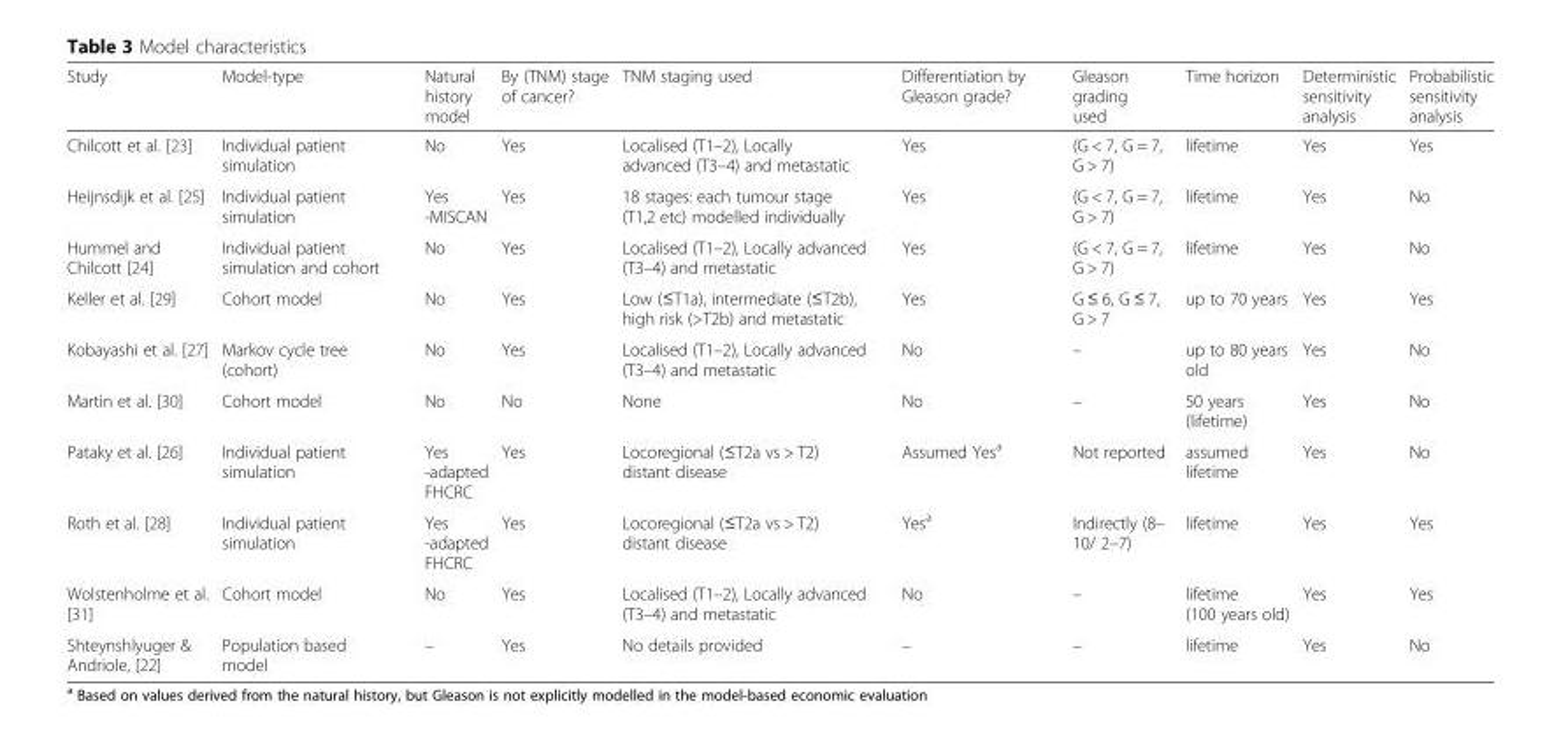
<table><thead><tr><td>Study</td><td>Model-type</td><td>Natural history model</td><td>By (TNM) stage of cancer?</td><td>TNM staging used</td><td>Differentiation by Gleason grade?</td><td>Gleason grading used</td><td>Time horizon</td><td>Deterministic sensitivity analysis</td><td>Probabilistic sensitivity analysis</td></tr></thead><tbody><tr><td>Chilcott et al. [23]</td><td>Individual patient simulation</td><td>No</td><td>Yes</td><td>Localised (T1–2), Locally advanced (T3–4) and metastatic</td><td>Yes</td><td>(G &lt; 7, G = 7, G &gt; 7)</td><td>lifetime</td><td>Yes</td><td>Yes</td></tr><tr><td>Heijnsdijk et al. [25]</td><td>Individual patient simulation</td><td>Yes -MISCAN</td><td>Yes</td><td>18 stages: each tumour stage (T1,2 etc) modelled individually</td><td>Yes</td><td>(G &lt; 7, G = 7, G &gt; 7)</td><td>lifetime</td><td>Yes</td><td>No</td></tr><tr><td>Hummel and Chilcott [24]</td><td>Individual patient simulation and cohort</td><td>No</td><td>Yes</td><td>Localised (T1–2), Locally advanced (T3–4) and metastatic</td><td>Yes</td><td>(G &lt; 7, G = 7, G &gt; 7)</td><td>lifetime</td><td>Yes</td><td>No</td></tr><tr><td>Keller et al. [29]</td><td>Cohort model</td><td>No</td><td>Yes</td><td>Low (≤T1a), intermediate (≤T2b), high risk (&gt;T2b) and metastatic</td><td>Yes</td><td>G ≤ 6, G ≤ 7, G &gt; 7</td><td>up to 70 years</td><td>Yes</td><td>Yes</td></tr><tr><td>Kobayashi et al. [27]</td><td>Markov cycle tree (cohort)</td><td>No</td><td>Yes</td><td>Localised (T1–2), Locally advanced (T3–4) and metastatic</td><td>No</td><td>–</td><td>up to 80 years old</td><td>Yes</td><td>No</td></tr><tr><td>Martin et al. [30]</td><td>Cohort model</td><td>No</td><td>No</td><td>None</td><td>No</td><td>–</td><td>50 years (lifetime)</td><td>Yes</td><td>No</td></tr><tr><td>Pataky et al. [26]</td><td>Individual patient simulation</td><td>Yes -adapted FHCRC</td><td>Yes</td><td>Locoregional (≤T2a vs &gt; T2) distant disease</td><td>Assumed Yes<sup>a</sup></td><td>Not reported</td><td>assumed lifetime</td><td>Yes</td><td>No</td></tr><tr><td>Roth et al. [28]</td><td>Individual patient simulation</td><td>Yes -adapted FHCRC</td><td>Yes</td><td>Locoregional (≤T2a vs &gt; T2) distant disease</td><td>Yes<sup>a</sup></td><td>Indirectly (8– 10/ 2–7)</td><td>lifetime</td><td>Yes</td><td>Yes</td></tr><tr><td>Wolstenholme et al. [31]</td><td>Cohort model</td><td>No</td><td>Yes</td><td>Localised (T1–2), Locally advanced (T3–4) and metastatic</td><td>No</td><td>–</td><td>lifetime (100 years old)</td><td>Yes</td><td>Yes</td></tr><tr><td>Shteynshlyuger &amp; Andriole, [22]</td><td>Population based model</td><td>–</td><td>Yes</td><td>No details provided</td><td>–</td><td>–</td><td>lifetime</td><td>Yes</td><td>No</td></tr></tbody></table>